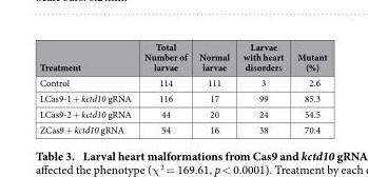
<table><thead><tr><td>Treatment</td><td>Total Number of larvae</td><td>Normal larvae</td><td>Larvae with heart disorders</td><td>Mutant (%)</td></tr></thead><tbody><tr><td>Control</td><td>114</td><td>111</td><td>3</td><td>2.6</td></tr><tr><td>LCas9-1 + kctd10 gRNA</td><td>116</td><td>17</td><td>99</td><td>85.3</td></tr><tr><td>LCas9-2 + kctd10 gRNA</td><td>44</td><td>20</td><td>24</td><td>54.5</td></tr><tr><td>ZCas9 + kctd10 gRNA</td><td>54</td><td>16</td><td>38</td><td>70.4</td></tr></tbody></table>